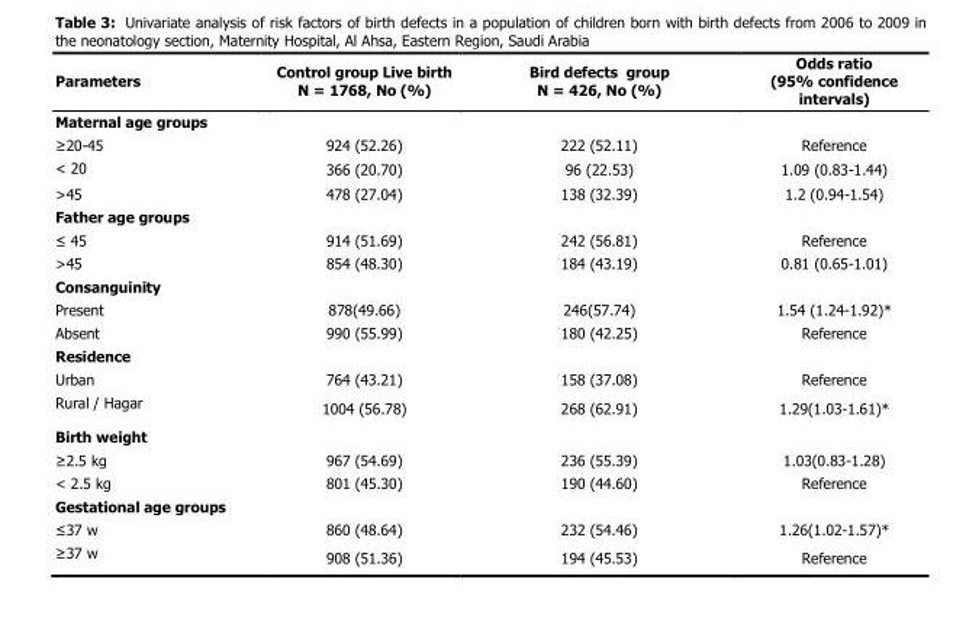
<table><thead><tr><td>Parameters</td><td>Control group Live birth N = 1768, No (%)</td><td>Bird defects group N = 426, No (%)</td><td>Odds ratio (95% confidence intervals)</td></tr></thead><tbody><tr><td colspan="4">Maternal age groups</td></tr><tr><td>≥20-45</td><td>924 (52.26)</td><td>222 (52.11)</td><td>Reference</td></tr><tr><td>&lt; 20</td><td>366 (20.70)</td><td>96 (22.53)</td><td>1.09 (0.83-1.44)</td></tr><tr><td>&gt;45</td><td>478 (27.04)</td><td>138 (32.39)</td><td>1.2 (0.94-1.54)</td></tr><tr><td colspan="4">Father age groups</td></tr><tr><td>≤ 45</td><td>914 (51.69)</td><td>242 (56.81)</td><td>Reference</td></tr><tr><td>&gt;45</td><td>854 (48.30)</td><td>184 (43.19)</td><td>0.81 (0.65-1.01)</td></tr><tr><td colspan="4">Consanguinity</td></tr><tr><td>Present</td><td>878(49.66)</td><td>246(57.74)</td><td>1.54 (1.24-1.92)*</td></tr><tr><td>Absent</td><td>990 (55.99)</td><td>180 (42.25)</td><td>Reference</td></tr><tr><td colspan="4">Residence</td></tr><tr><td>Urban</td><td>764 (43.21)</td><td>158 (37.08)</td><td>Reference</td></tr><tr><td>Rural / Hagar</td><td>1004 (56.78)</td><td>268 (62.91)</td><td>1.29(1.03-1.61)*</td></tr><tr><td colspan="4">Birth weight</td></tr><tr><td>≥2.5 kg</td><td>967 (54.69)</td><td>236 (55.39)</td><td>1.03(0.83-1.28)</td></tr><tr><td>&lt; 2.5 kg</td><td>801 (45.30)</td><td>190 (44.60)</td><td>Reference</td></tr><tr><td colspan="4">Gestational age groups</td></tr><tr><td>≤37 w</td><td>860 (48.64)</td><td>232 (54.46)</td><td>1.26(1.02-1.57)*</td></tr><tr><td>≥37 w</td><td>908 (51.36)</td><td>194 (45.53)</td><td>Reference</td></tr></tbody></table>